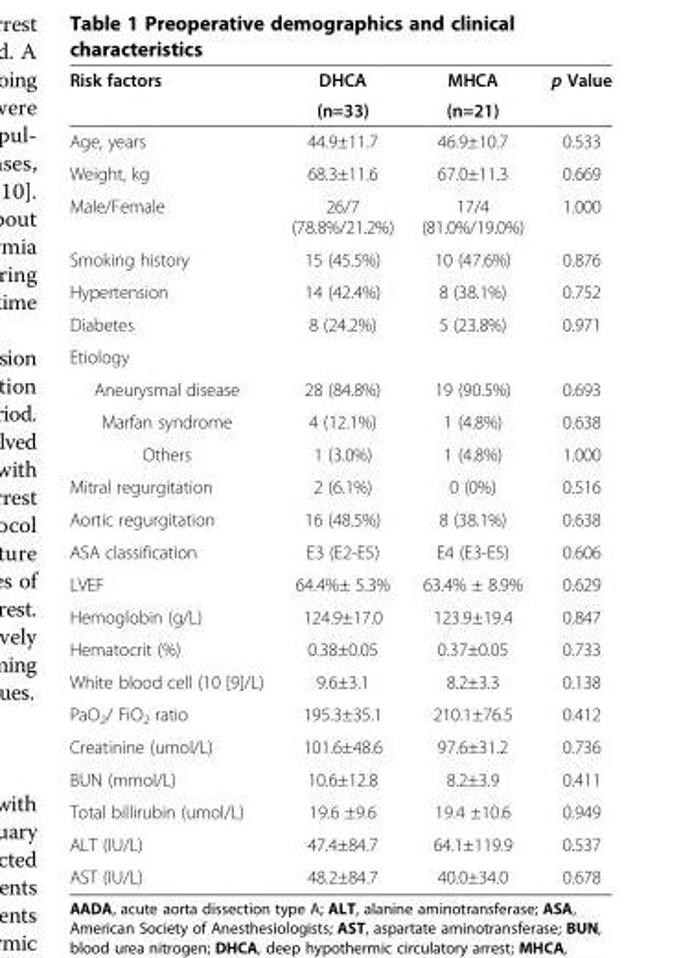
<table><thead><tr><td rowspan="2">Risk factors</td><td rowspan="2">DHCA (n=33)</td><td rowspan="2">MHCA (n=21)</td><td rowspan="2">p Value</td></tr><tr></tr></thead><tbody><tr><td>Age, years</td><td>44.9±11.7</td><td>46.9±10.7</td><td>0.533</td></tr><tr><td>Weight, kg</td><td>68.3±11.6</td><td>67.0±11.3</td><td>0.669</td></tr><tr><td>Male/Female</td><td>26/7 (78.8%/21.2%)</td><td>17/4 (81.0%/19.0%)</td><td>1.000</td></tr><tr><td>Smoking history</td><td>15 (45.5%)</td><td>10 (47.6%)</td><td>0.876</td></tr><tr><td>Hypertension</td><td>14 (42.4%)</td><td>8 (38.1%)</td><td>0.752</td></tr><tr><td>Diabetes</td><td>8 (24.2%)</td><td>5 (23.8%)</td><td>0.971</td></tr><tr><td colspan="4">Etiology</td></tr><tr><td>Aneurysmal disease</td><td>28 (84.8%)</td><td>19 (90.5%)</td><td>0.693</td></tr><tr><td>Marfan syndrome</td><td>4 (12.1%)</td><td>1 (4.8%)</td><td>0.638</td></tr><tr><td>Others</td><td>1 (3.0%)</td><td>1 (4.8%)</td><td>1.000</td></tr><tr><td>Mitral regurgitation</td><td>2 (6.1%)</td><td>0 (0%)</td><td>0.516</td></tr><tr><td>Aortic regurgitation</td><td>16 (48.5%)</td><td>8 (38.1%)</td><td>0.638</td></tr><tr><td>ASA classification</td><td>E3 (E2-E5)</td><td>E4 (E3-E5)</td><td>0.606</td></tr><tr><td>LVEF</td><td>64.4%± 5.3%</td><td>63.4% ± 8.9%</td><td>0.629</td></tr><tr><td>Hemoglobin (g/L)</td><td>124.9±17.0</td><td>123.9±19.4</td><td>0.847</td></tr><tr><td>Hematocrit (%)</td><td>0.38±0.05</td><td>0.37±0.05</td><td>0.733</td></tr><tr><td>White blood cell (10 [9]/L)</td><td>9.6±3.1</td><td>8.2±3.3</td><td>0.138</td></tr><tr><td>PaO<sub>2</sub>/ FiO<sub>2</sub> ratio</td><td>195.3±35.1</td><td>210.1±76.5</td><td>0.412</td></tr><tr><td>Creatinine (umol/L)</td><td>101.6±48.6</td><td>97.6±31.2</td><td>0.736</td></tr><tr><td>BUN (mmol/L)</td><td>10.6±12.8</td><td>8.2±3.9</td><td>0.411</td></tr><tr><td>Total billirubin (umol/L)</td><td>19.6 ±9.6</td><td>19.4 ±10.6</td><td>0.949</td></tr><tr><td>ALT (IU/L)</td><td>47.4±84.7</td><td>64.1±119.9</td><td>0.537</td></tr><tr><td>AST (IU/L)</td><td>48.2±84.7</td><td>40.0±34.0</td><td>0.678</td></tr></tbody></table>